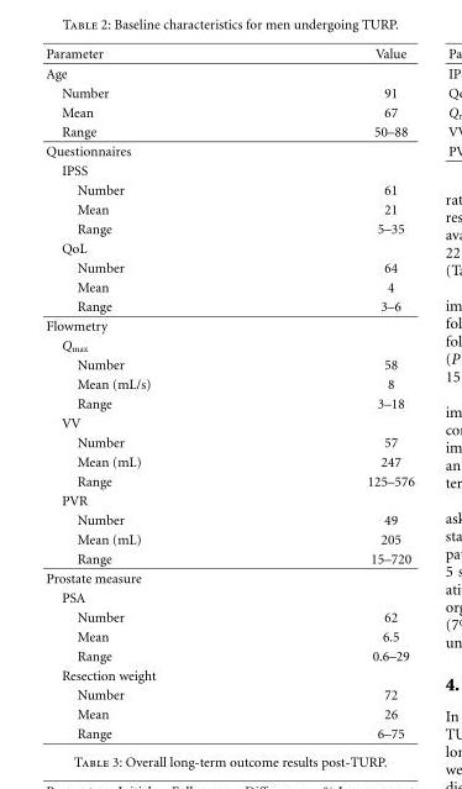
<table><thead><tr><td>Parameter</td><td>Value</td></tr></thead><tbody><tr><td colspan="2">Age</td></tr><tr><td>Number</td><td>91</td></tr><tr><td>Mean</td><td>67</td></tr><tr><td>Range</td><td>50–88</td></tr><tr><td colspan="2">Questionnaires</td></tr><tr><td colspan="2">IPSS</td></tr><tr><td>Number</td><td>61</td></tr><tr><td>Mean</td><td>21</td></tr><tr><td>Range</td><td>5–35</td></tr><tr><td colspan="2">QoL</td></tr><tr><td>Number</td><td>64</td></tr><tr><td>Mean</td><td>4</td></tr><tr><td>Range</td><td>3–6</td></tr><tr><td colspan="2">Flowmetry</td></tr><tr><td colspan="2">Q<sub>max</sub></td></tr><tr><td>Number</td><td>58</td></tr><tr><td>Mean (mL/s)</td><td>8</td></tr><tr><td>Range</td><td>3–18</td></tr><tr><td colspan="2">VV</td></tr><tr><td>Number</td><td>57</td></tr><tr><td>Mean (mL)</td><td>247</td></tr><tr><td>Range</td><td>125–576</td></tr><tr><td colspan="2">PVR</td></tr><tr><td>Number</td><td>49</td></tr><tr><td>Mean (mL)</td><td>205</td></tr><tr><td>Range</td><td>15–720</td></tr><tr><td colspan="2">Prostate measure</td></tr><tr><td colspan="2">PSA</td></tr><tr><td>Number</td><td>62</td></tr><tr><td>Mean</td><td>6.5</td></tr><tr><td>Range</td><td>0.6–29</td></tr><tr><td colspan="2">Resection weight</td></tr><tr><td>Number</td><td>72</td></tr><tr><td>Mean</td><td>26</td></tr><tr><td>Range</td><td>6–75</td></tr></tbody></table>